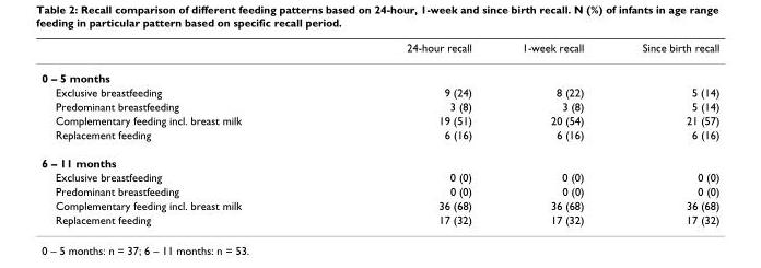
<table><thead><tr><td></td><td>24-hour recall</td><td>1-week recall</td><td>Since birth recall</td></tr></thead><tbody><tr><td colspan="4">0 – 5 months</td></tr><tr><td>Exclusive breastfeeding</td><td>9 (24)</td><td>8 (22)</td><td>5 (14)</td></tr><tr><td>Predominant breastfeeding</td><td>3 (8)</td><td>3 (8)</td><td>5 (14)</td></tr><tr><td>Complementary feeding incl. breast milk</td><td>19 (51)</td><td>20 (54)</td><td>21 (57)</td></tr><tr><td>Replacement feeding</td><td>6 (16)</td><td>6 (16)</td><td>6 (16)</td></tr><tr><td colspan="4">6 – 11 months</td></tr><tr><td>Exclusive breastfeeding</td><td>0 (0)</td><td>0 (0)</td><td>0 (0)</td></tr><tr><td>Predominant breastfeeding</td><td>0 (0)</td><td>0 (0)</td><td>0 (0)</td></tr><tr><td>Complementary feeding incl. breast milk</td><td>36 (68)</td><td>36 (68)</td><td>36 (68)</td></tr><tr><td>Replacement feeding</td><td>17 (32)</td><td>17 (32)</td><td>17 (32)</td></tr></tbody></table>